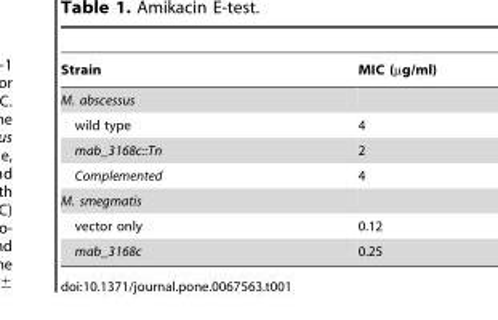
<table><thead><tr><td>Strain</td><td>MIC (µg/ml)</td></tr></thead><tbody><tr><td colspan="2">M. abscessus</td></tr><tr><td>wild type</td><td>4</td></tr><tr><td>mab_3168c::Tn</td><td>2</td></tr><tr><td>Complemented</td><td>4</td></tr><tr><td colspan="2">M. smegmatis</td></tr><tr><td>vector only</td><td>0.12</td></tr><tr><td>mab_3168c</td><td>0.25</td></tr></tbody></table>